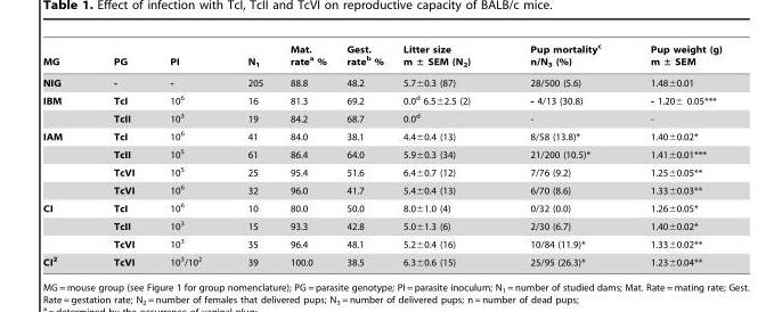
<table><thead><tr><td>MG</td><td>PG</td><td>PI</td><td>N<sub>1</sub></td><td>Mat. rate<sup>a</sup> %</td><td>Gest. rate<sup>b</sup> %</td><td>Litter size m ± SEM (N<sub>2</sub>)</td><td>Pup mortality<sup>c</sup> n/N<sub>3</sub> (%)</td><td>Pup weight (g) m ± SEM</td></tr></thead><tbody><tr><td>NIG</td><td>-</td><td>-</td><td>205</td><td>88.8</td><td>48.2</td><td>5.7±0.3 (87)</td><td>28/500 (5.6)</td><td>1.48±0.01</td></tr><tr><td rowspan="2">IBM</td><td>TcI</td><td>10<sup>6</sup></td><td>16</td><td>81.3</td><td>69.2</td><td>0.0<sup>d</sup> 6.5±2.5 (2)</td><td>- 4/13 (30.8)</td><td>- 1.20± 0.05***</td></tr><tr><td>TcII</td><td>10<sup>3</sup></td><td>19</td><td>84.2</td><td>68.7</td><td>0.0<sup>d</sup></td><td>-</td><td>-</td></tr><tr><td rowspan="4">IAM</td><td>TcI</td><td>10<sup>6</sup></td><td>41</td><td>84.0</td><td>38.1</td><td>4.4±0.4 (13)</td><td>8/58 (13.8)*</td><td>1.40±0.02*</td></tr><tr><td>TcII</td><td>10<sup>5</sup></td><td>61</td><td>86.4</td><td>64.0</td><td>5.9±0.3 (34)</td><td>21/200 (10.5)*</td><td>1.41±0.01***</td></tr><tr><td>TcVI</td><td>10<sup>5</sup></td><td>25</td><td>95.4</td><td>51.6</td><td>6.4±0.7 (12)</td><td>7/76 (9.2)</td><td>1.25±0.05**</td></tr><tr><td>TcVI</td><td>10<sup>6</sup></td><td>32</td><td>96.0</td><td>41.7</td><td>5.4±0.4 (13)</td><td>6/70 (8.6)</td><td>1.33±0.03**</td></tr><tr><td rowspan="3">CI</td><td>TcI</td><td>10<sup>6</sup></td><td>10</td><td>80.0</td><td>50.0</td><td>8.0±1.0 (4)</td><td>0/32 (0.0)</td><td>1.26±0.05*</td></tr><tr><td>TcII</td><td>10<sup>3</sup></td><td>15</td><td>93.3</td><td>42.8</td><td>5.0±1.3 (6)</td><td>2/30 (6.7)</td><td>1.40±0.02*</td></tr><tr><td>TcVI</td><td>10<sup>3</sup></td><td>35</td><td>96.4</td><td>48.1</td><td>5.2±0.4 (16)</td><td>10/84 (11.9)*</td><td>1.33±0.02**</td></tr><tr><td>CI<sup>2</sup></td><td>TcVI</td><td>10<sup>3</sup>/10<sup>2</sup></td><td>39</td><td>100.0</td><td>38.5</td><td>6.3±0.6 (15)</td><td>25/95 (26.3)*</td><td>1.23±0.04**</td></tr></tbody></table>